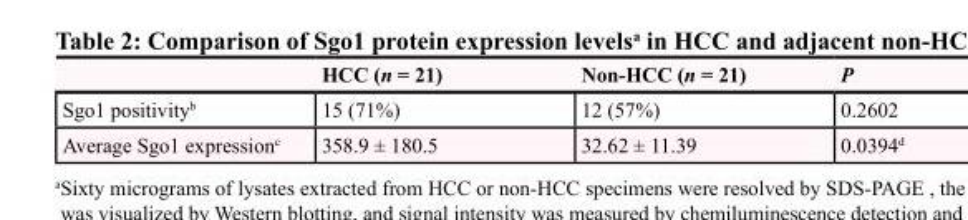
<table><thead><tr><td></td><td>HCC (n = 21)</td><td>Non-HCC (n = 21)</td><td>P</td></tr></thead><tbody><tr><td>Sgo1 positivity<sup>b</sup></td><td>15 (71%)</td><td>12 (57%)</td><td>0.2602</td></tr><tr><td>Average Sgo1 expression<sup>c</sup></td><td>358.9 ± 180.5</td><td>32.62 ± 11.39</td><td>0.0394<sup>d</sup></td></tr></tbody></table>